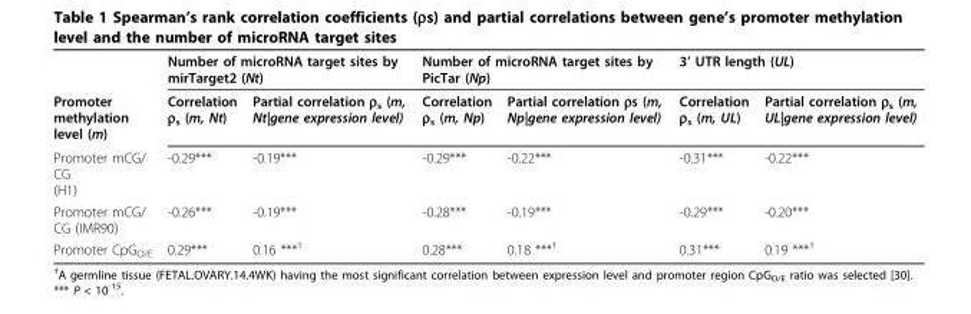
<table><thead><tr><td rowspan="2">Promoter methylation level (m)</td><td colspan="2">Number of microRNA target sites by mirTarget2 (Nt)</td><td colspan="2">Number of microRNA target sites by PicTar (Np)</td><td colspan="2">3’ UTR length (UL)</td></tr><tr><td>Correlation ρ<sub>s</sub> (m, Nt)</td><td>Partial correlation ρ<sub>s</sub> (m, Nt|gene expression level)</td><td>Correlation ρ<sub>s</sub> (m, Np)</td><td>Partial correlation ρs (m, Np|gene expression level)</td><td>Correlation ρ<sub>s</sub> (m, UL)</td><td>Partial correlation ρ<sub>s</sub> (m, UL|gene expression level)</td></tr></thead><tbody><tr><td>Promoter mCG/ CG (H1)</td><td>-0.29***</td><td>-0.19***</td><td>-0.29***</td><td>-0.22***</td><td>-0.31***</td><td>-0.22***</td></tr><tr><td>Promoter mCG/ CG (IMR90)</td><td>-0.26***</td><td>-0.19***</td><td>-0.28***</td><td>-0.19***</td><td>-0.29***</td><td>-0.20***</td></tr><tr><td>Promoter CpG<sub>O/E</sub></td><td>0.29***</td><td>0.16 ***<sup>†</sup></td><td>0.28***</td><td>0.18 ***<sup>†</sup></td><td>0.31***</td><td>0.19 ***<sup>†</sup></td></tr></tbody></table>